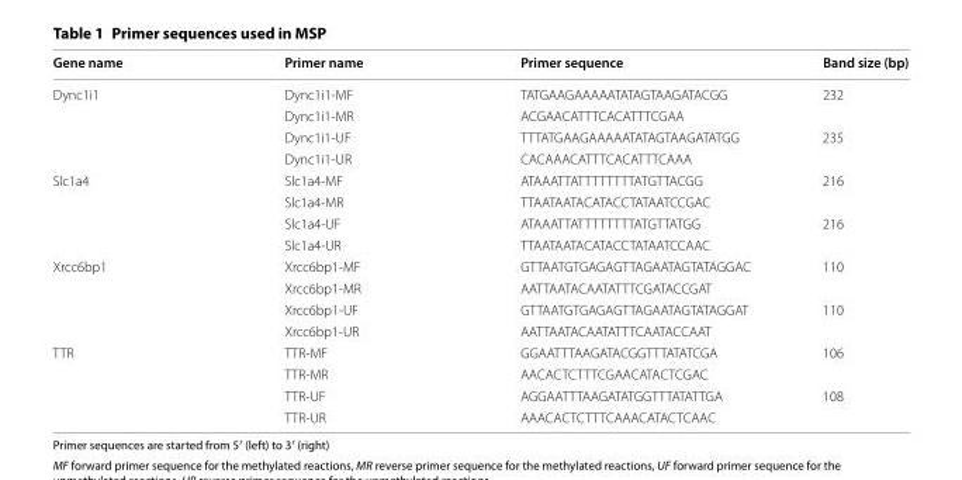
<table><thead><tr><td>Gene name</td><td>Primer name</td><td>Primer sequence</td><td>Band size (bp)</td></tr></thead><tbody><tr><td rowspan="4">Dync1i1</td><td>Dync1i1‑MF</td><td>TATGAAGAAAAATATAGTAAGATACGG</td><td rowspan="2">232</td></tr><tr><td>Dync1i1‑MR</td><td>ACGAACATTTCACATTTCGAA</td></tr><tr><td>Dync1i1‑UF</td><td>TTTATGAAGAAAAATATAGTAAGATATGG</td><td rowspan="2">235</td></tr><tr><td>Dync1i1‑UR</td><td>CACAAACATTTCACATTTCAAA</td></tr><tr><td rowspan="4">Slc1a4</td><td>Slc1a4‑MF</td><td>ATAAATTATTTTTTTTATGTTACGG</td><td rowspan="2">216</td></tr><tr><td>Slc1a4‑MR</td><td>TTAATAATACATACCTATAATCCGAC</td></tr><tr><td>Slc1a4‑UF</td><td>ATAAATTATTTTTTTTATGTTATGG</td><td rowspan="2">216</td></tr><tr><td>Slc1a4‑UR</td><td>TTAATAATACATACCTATAATCCAAC</td></tr><tr><td rowspan="4">Xrcc6bp1</td><td>Xrcc6bp1‑MF</td><td>GTTAATGTGAGAGTTAGAATAGTATAGGAC</td><td rowspan="2">110</td></tr><tr><td>Xrcc6bp1‑MR</td><td>AATTAATACAATATTTCGATACCGAT</td></tr><tr><td>Xrcc6bp1‑UF</td><td>GTTAATGTGAGAGTTAGAATAGTATAGGAT</td><td rowspan="2">110</td></tr><tr><td>Xrcc6bp1‑UR</td><td>AATTAATACAATATTTCAATACCAAT</td></tr><tr><td rowspan="4">TTR</td><td>TTR‑MF</td><td>GGAATTTAAGATACGGTTTATATCGA</td><td rowspan="2">106</td></tr><tr><td>TTR‑MR</td><td>AACACTCTTTCGAACATACTCGAC</td></tr><tr><td>TTR‑UF</td><td>AGGAATTTAAGATATGGTTTATATTGA</td><td rowspan="2">108</td></tr><tr><td>TTR‑UR</td><td>AAACACTCTTTCAAACATACTCAAC</td></tr></tbody></table>